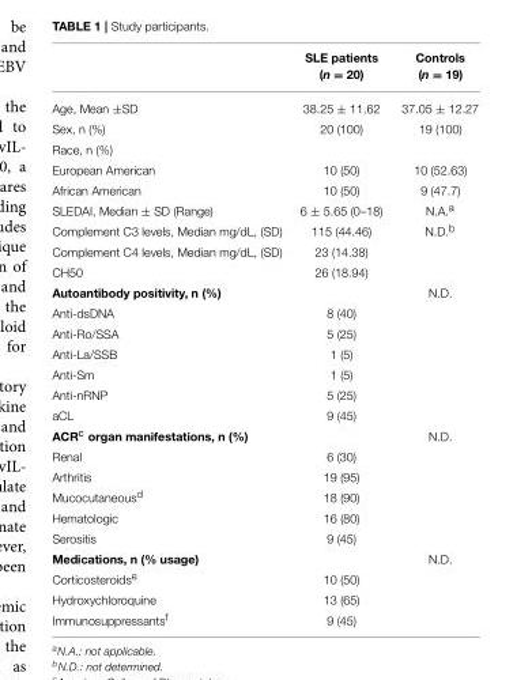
<table><thead><tr><td></td><td>SLE patients (n = 20)</td><td>Controls (n = 19)</td></tr></thead><tbody><tr><td>Age, Mean ±SD</td><td>38.25 ± 11.62</td><td>37.05 ± 12.27</td></tr><tr><td>Sex, n (%)</td><td>20 (100)</td><td>19 (100)</td></tr><tr><td colspan="3">Race, n (%)</td></tr><tr><td>European American</td><td>10 (50)</td><td>10 (52.63)</td></tr><tr><td>African American</td><td>10 (50)</td><td>9 (47.7)</td></tr><tr><td>SLEDAI, Median ± SD (Range)</td><td>6 ± 5.65 (0–18)</td><td>N.A.<sup>a</sup></td></tr><tr><td>Complement C3 levels, Median mg/dL, (SD)</td><td>115 (44.46)</td><td>N.D.<sup>b</sup></td></tr><tr><td>Complement C4 levels, Median mg/dL, (SD)</td><td>23 (14.38)</td><td></td></tr><tr><td>CH50</td><td>26 (18.94)</td><td></td></tr><tr><td>Autoantibody positivity, n (%)</td><td></td><td>N.D.</td></tr><tr><td>Anti-dsDNA</td><td>8 (40)</td><td></td></tr><tr><td>Anti-Ro/SSA</td><td>5 (25)</td><td></td></tr><tr><td>Anti-La/SSB</td><td>1 (5)</td><td></td></tr><tr><td>Anti-Sm</td><td>1 (5)</td><td></td></tr><tr><td>Anti-nRNP</td><td>5 (25)</td><td></td></tr><tr><td>aCL</td><td>9 (45)</td><td></td></tr><tr><td>ACR<sup>c</sup> organ manifestations, n (%)</td><td></td><td>N.D.</td></tr><tr><td>Renal</td><td>6 (30)</td><td></td></tr><tr><td>Arthritis</td><td>19 (95)</td><td></td></tr><tr><td>Mucocutaneous<sup>d</sup></td><td>18 (90)</td><td></td></tr><tr><td>Hematologic</td><td>16 (80)</td><td></td></tr><tr><td>Serositis</td><td>9 (45)</td><td></td></tr><tr><td>Medications, n (% usage)</td><td></td><td>N.D.</td></tr><tr><td>Corticosteroids<sup>e</sup></td><td>10 (50)</td><td></td></tr><tr><td>Hydroxychloroquine</td><td>13 (65)</td><td></td></tr><tr><td>Immunosuppressants<sup>f</sup></td><td>9 (45)</td><td></td></tr></tbody></table>